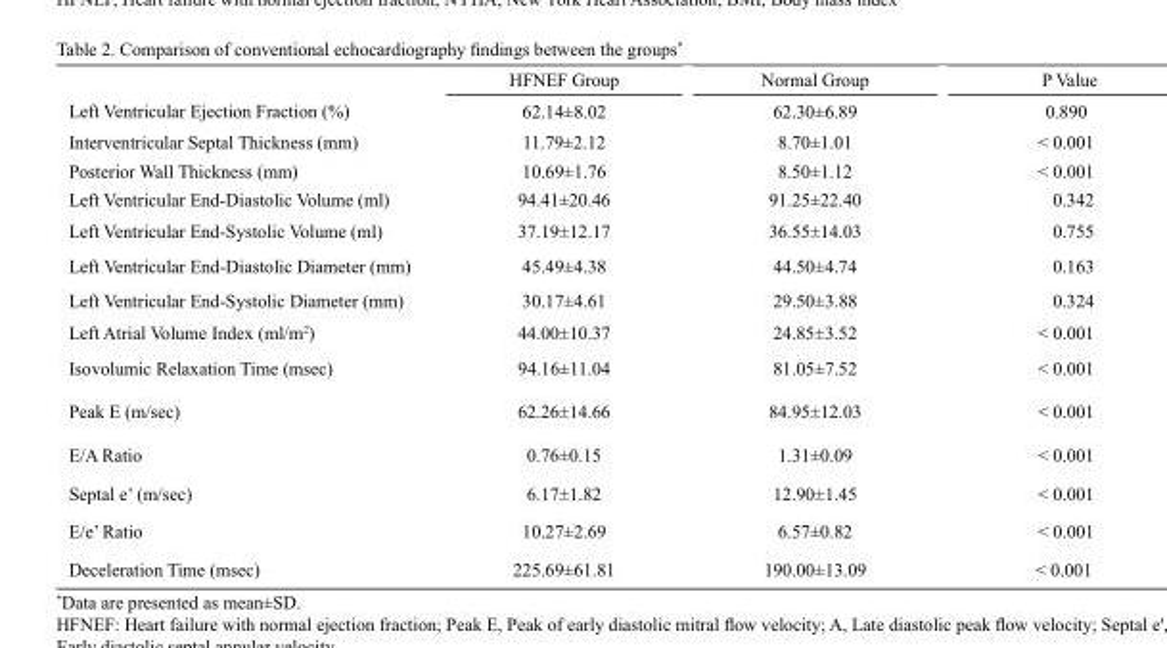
<table><thead><tr><td></td><td>HFNEF Group</td><td>Normal Group</td><td>P Value</td></tr></thead><tbody><tr><td>Left Ventricular Ejection Fraction (%)</td><td>62.14±8.02</td><td>62.30±6.89</td><td>0.890</td></tr><tr><td>Interventricular Septal Thickness (mm)</td><td>11.79±2.12</td><td>8.70±1.01</td><td>&lt; 0.001</td></tr><tr><td>Posterior Wall Thickness (mm)</td><td>10.69±1.76</td><td>8.50±1.12</td><td>&lt; 0.001</td></tr><tr><td>Left Ventricular End-Diastolic Volume (ml)</td><td>94.41±20.46</td><td>91.25±22.40</td><td>0.342</td></tr><tr><td>Left Ventricular End-Systolic Volume (ml)</td><td>37.19±12.17</td><td>36.55±14.03</td><td>0.755</td></tr><tr><td>Left Ventricular End-Diastolic Diameter (mm)</td><td>45.49±4.38</td><td>44.50±4.74</td><td>0.163</td></tr><tr><td>Left Ventricular End-Systolic Diameter (mm)</td><td>30.17±4.61</td><td>29.50±3.88</td><td>0.324</td></tr><tr><td>Left Atrial Volume Index (ml/m<sup>2</sup>)</td><td>44.00±10.37</td><td>24.85±3.52</td><td>&lt; 0.001</td></tr><tr><td>Isovolumic Relaxation Time (msec)</td><td>94.16±11.04</td><td>81.05±7.52</td><td>&lt; 0.001</td></tr><tr><td>Peak E (m/sec)</td><td>62.26±14.66</td><td>84.95±12.03</td><td>&lt; 0.001</td></tr><tr><td>E/A Ratio</td><td>0.76±0.15</td><td>1.31±0.09</td><td>&lt; 0.001</td></tr><tr><td>Septal e’ (m/sec)</td><td>6.17±1.82</td><td>12.90±1.45</td><td>&lt; 0.001</td></tr><tr><td>E/e’ Ratio</td><td>10.27±2.69</td><td>6.57±0.82</td><td>&lt; 0.001</td></tr><tr><td>Deceleration Time (msec)</td><td>225.69±61.81</td><td>190.00±13.09</td><td>&lt; 0.001</td></tr></tbody></table>